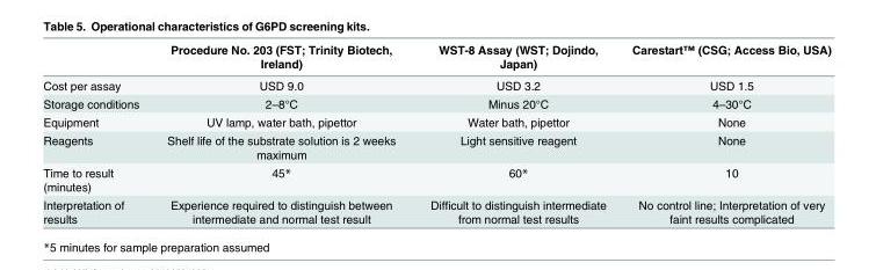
<table><thead><tr><td></td><td>Procedure No. 203 (FST; Trinity Biotech, Ireland)</td><td>WST-8 Assay (WST; Dojindo, Japan)</td><td>Carestart™ (CSG; Access Bio, USA)</td></tr></thead><tbody><tr><td>Cost per assay</td><td>USD 9.0</td><td>USD 3.2</td><td>USD 1.5</td></tr><tr><td>Storage conditions</td><td>2–8°C</td><td>Minus 20°C</td><td>4–30°C</td></tr><tr><td>Equipment</td><td>UV lamp, water bath, pipettor</td><td>Water bath, pipettor</td><td>None</td></tr><tr><td>Reagents</td><td>Shelf life of the substrate solution is 2 weeks maximum</td><td>Light sensitive reagent</td><td>None</td></tr><tr><td>Time to result (minutes)</td><td>45*</td><td>60*</td><td>10</td></tr><tr><td>Interpretation of results</td><td>Experience required to distinguish between intermediate and normal test result</td><td>Difficult to distinguish intermediate from normal test results</td><td>No control line; Interpretation of very faint results complicated</td></tr></tbody></table>